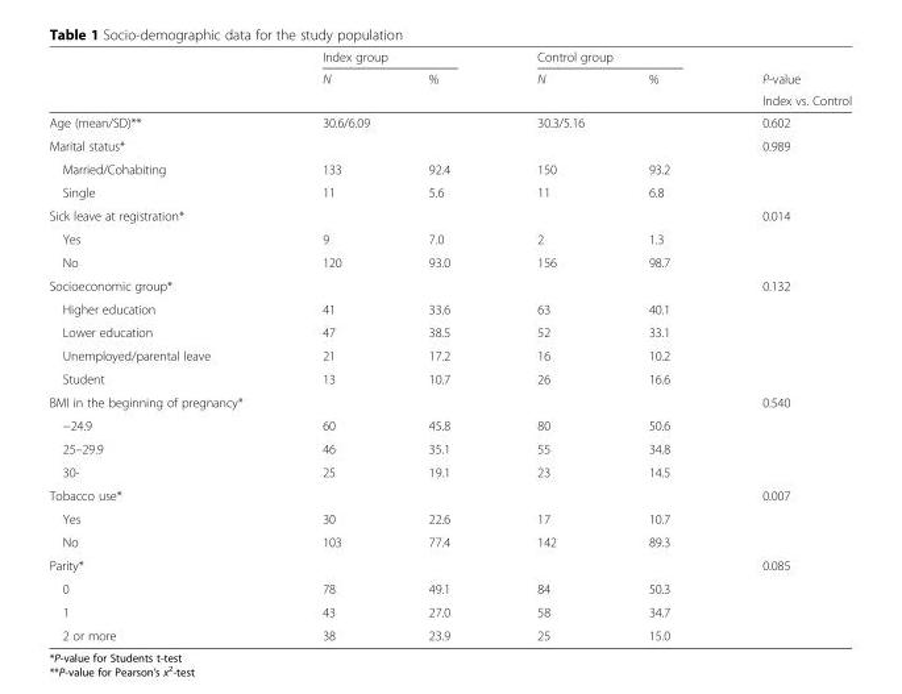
<table><thead><tr><td rowspan="3"></td><td colspan="2">Index group</td><td colspan="2">Control group</td><td rowspan="3">P-value Index vs. Control</td></tr><tr><td rowspan="2">N</td><td rowspan="2">%</td><td rowspan="2">N</td><td rowspan="2">%</td></tr><tr></tr></thead><tbody><tr><td>Age (mean/SD)**</td><td colspan="2">30.6/6.09</td><td colspan="2">30.3/5.16</td><td>0.602</td></tr><tr><td>Marital status*</td><td></td><td></td><td></td><td></td><td>0.989</td></tr><tr><td>Married/Cohabiting</td><td>133</td><td>92.4</td><td>150</td><td>93.2</td><td></td></tr><tr><td>Single</td><td>11</td><td>5.6</td><td>11</td><td>6.8</td><td></td></tr><tr><td>Sick leave at registration*</td><td></td><td></td><td></td><td></td><td>0.014</td></tr><tr><td>Yes</td><td>9</td><td>7.0</td><td>2</td><td>1.3</td><td></td></tr><tr><td>No</td><td>120</td><td>93.0</td><td>156</td><td>98.7</td><td></td></tr><tr><td>Socioeconomic group*</td><td></td><td></td><td></td><td></td><td>0.132</td></tr><tr><td>Higher education</td><td>41</td><td>33.6</td><td>63</td><td>40.1</td><td></td></tr><tr><td>Lower education</td><td>47</td><td>38.5</td><td>52</td><td>33.1</td><td></td></tr><tr><td>Unemployed/parental leave</td><td>21</td><td>17.2</td><td>16</td><td>10.2</td><td></td></tr><tr><td>Student</td><td>13</td><td>10.7</td><td>26</td><td>16.6</td><td></td></tr><tr><td>BMI in the beginning of pregnancy*</td><td></td><td></td><td></td><td></td><td>0.540</td></tr><tr><td>−24.9</td><td>60</td><td>45.8</td><td>80</td><td>50.6</td><td></td></tr><tr><td>25–29.9</td><td>46</td><td>35.1</td><td>55</td><td>34.8</td><td></td></tr><tr><td>30-</td><td>25</td><td>19.1</td><td>23</td><td>14.5</td><td></td></tr><tr><td>Tobacco use*</td><td></td><td></td><td></td><td></td><td>0.007</td></tr><tr><td>Yes</td><td>30</td><td>22.6</td><td>17</td><td>10.7</td><td></td></tr><tr><td>No</td><td>103</td><td>77.4</td><td>142</td><td>89.3</td><td></td></tr><tr><td>Parity*</td><td></td><td></td><td></td><td></td><td>0.085</td></tr><tr><td>0</td><td>78</td><td>49.1</td><td>84</td><td>50.3</td><td></td></tr><tr><td>1</td><td>43</td><td>27.0</td><td>58</td><td>34.7</td><td></td></tr><tr><td>2 or more</td><td>38</td><td>23.9</td><td>25</td><td>15.0</td><td></td></tr></tbody></table>